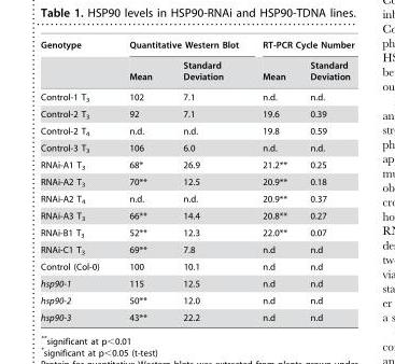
<table><thead><tr><td rowspan="2">Genotype</td><td colspan="2">Quantitative Western Blot</td><td colspan="2">RT-PCR Cycle Number</td></tr><tr><td>Mean</td><td>Standard Deviation</td><td>Mean</td><td>Standard Deviation</td></tr></thead><tbody><tr><td>Control-1 T<sub>3</sub></td><td>102</td><td>7.1</td><td>n.d.</td><td>n.d.</td></tr><tr><td>Control-2 T<sub>3</sub></td><td>92</td><td>7.1</td><td>19.6</td><td>0.39</td></tr><tr><td>Control-2 T<sub>4</sub></td><td>n.d.</td><td>n.d.</td><td>19.8</td><td>0.59</td></tr><tr><td>Control-3 T<sub>3</sub></td><td>106</td><td>6.0</td><td>n.d.</td><td>n.d.</td></tr><tr><td>RNAi-A1 T<sub>3</sub></td><td>68*</td><td>26.9</td><td>21.2**</td><td>0.25</td></tr><tr><td>RNAi-A2 T<sub>3</sub></td><td>70**</td><td>12.5</td><td>20.9**</td><td>0.18</td></tr><tr><td>RNAi-A2 T<sub>4</sub></td><td>n.d.</td><td>n.d.</td><td>20.9**</td><td>0.37</td></tr><tr><td>RNAi-A3 T<sub>3</sub></td><td>66**</td><td>14.4</td><td>20.8**</td><td>0.27</td></tr><tr><td>RNAi-B1 T<sub>3</sub></td><td>52**</td><td>12.3</td><td>22.0**</td><td>0.07</td></tr><tr><td>RNAi-C1 T<sub>3</sub></td><td>69**</td><td>7.8</td><td>n.d</td><td>n.d</td></tr><tr><td>Control (Col-0)</td><td>100</td><td>10.1</td><td>n.d</td><td>n.d</td></tr><tr><td>hsp90-1</td><td>115</td><td>12.5</td><td>n.d</td><td>n.d</td></tr><tr><td>hsp90-2</td><td>50**</td><td>12.0</td><td>n.d</td><td>n.d</td></tr><tr><td>hsp90-3</td><td>43**</td><td>22.2</td><td>n.d</td><td>n.d</td></tr></tbody></table>